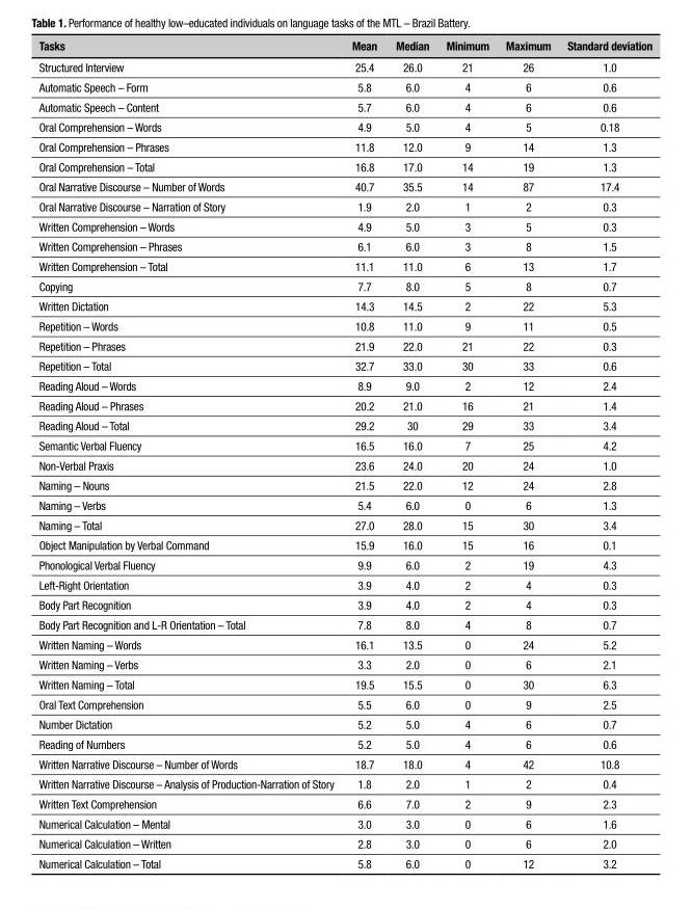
<table><thead><tr><td>Tasks</td><td>Mean</td><td>Median</td><td>Minimum</td><td>Maximum</td><td>Standard deviation</td></tr></thead><tbody><tr><td>Structured Interview</td><td>25.4</td><td>26.0</td><td>21</td><td>26</td><td>1.0</td></tr><tr><td>Automatic Speech – Form</td><td>5.8</td><td>6.0</td><td>4</td><td>6</td><td>0.6</td></tr><tr><td>Automatic Speech – Content</td><td>5.7</td><td>6.0</td><td>4</td><td>6</td><td>0.6</td></tr><tr><td>Oral Comprehension – Words</td><td>4.9</td><td>5.0</td><td>4</td><td>5</td><td>0.18</td></tr><tr><td>Oral Comprehension – Phrases</td><td>11.8</td><td>12.0</td><td>9</td><td>14</td><td>1.3</td></tr><tr><td>Oral Comprehension – Total</td><td>16.8</td><td>17.0</td><td>14</td><td>19</td><td>1.3</td></tr><tr><td>Oral Narrative Discourse – Number of Words</td><td>40.7</td><td>35.5</td><td>14</td><td>87</td><td>17.4</td></tr><tr><td>Oral Narrative Discourse – Narration of Story</td><td>1.9</td><td>2.0</td><td>1</td><td>2</td><td>0.3</td></tr><tr><td>Written Comprehension – Words</td><td>4.9</td><td>5.0</td><td>3</td><td>5</td><td>0.3</td></tr><tr><td>Written Comprehension – Phrases</td><td>6.1</td><td>6.0</td><td>3</td><td>8</td><td>1.5</td></tr><tr><td>Written Comprehension – Total</td><td>11.1</td><td>11.0</td><td>6</td><td>13</td><td>1.7</td></tr><tr><td>Copying</td><td>7.7</td><td>8.0</td><td>5</td><td>8</td><td>0.7</td></tr><tr><td>Written Dictation</td><td>14.3</td><td>14.5</td><td>2</td><td>22</td><td>5.3</td></tr><tr><td>Repetition – Words</td><td>10.8</td><td>11.0</td><td>9</td><td>11</td><td>0.5</td></tr><tr><td>Repetition – Phrases</td><td>21.9</td><td>22.0</td><td>21</td><td>22</td><td>0.3</td></tr><tr><td>Repetition – Total</td><td>32.7</td><td>33.0</td><td>30</td><td>33</td><td>0.6</td></tr><tr><td>Reading Aloud – Words</td><td>8.9</td><td>9.0</td><td>2</td><td>12</td><td>2.4</td></tr><tr><td>Reading Aloud – Phrases</td><td>20.2</td><td>21.0</td><td>16</td><td>21</td><td>1.4</td></tr><tr><td>Reading Aloud – Total</td><td>29.2</td><td>30</td><td>29</td><td>33</td><td>3.4</td></tr><tr><td>Semantic Verbal Fluency</td><td>16.5</td><td>16.0</td><td>7</td><td>25</td><td>4.2</td></tr><tr><td>Non-Verbal Praxis</td><td>23.6</td><td>24.0</td><td>20</td><td>24</td><td>1.0</td></tr><tr><td>Naming – Nouns</td><td>21.5</td><td>22.0</td><td>12</td><td>24</td><td>2.8</td></tr><tr><td>Naming – Verbs</td><td>5.4</td><td>6.0</td><td>0</td><td>6</td><td>1.3</td></tr><tr><td>Naming – Total</td><td>27.0</td><td>28.0</td><td>15</td><td>30</td><td>3.4</td></tr><tr><td>Object Manipulation by Verbal Command</td><td>15.9</td><td>16.0</td><td>15</td><td>16</td><td>0.1</td></tr><tr><td>Phonological Verbal Fluency</td><td>9.9</td><td>6.0</td><td>2</td><td>19</td><td>4.3</td></tr><tr><td>Left-Right Orientation</td><td>3.9</td><td>4.0</td><td>2</td><td>4</td><td>0.3</td></tr><tr><td>Body Part Recognition</td><td>3.9</td><td>4.0</td><td>2</td><td>4</td><td>0.3</td></tr><tr><td>Body Part Recognition and L-R Orientation – Total</td><td>7.8</td><td>8.0</td><td>4</td><td>8</td><td>0.7</td></tr><tr><td>Written Naming – Words</td><td>16.1</td><td>13.5</td><td>0</td><td>24</td><td>5.2</td></tr><tr><td>Written Naming – Verbs</td><td>3.3</td><td>2.0</td><td>0</td><td>6</td><td>2.1</td></tr><tr><td>Written Naming – Total</td><td>19.5</td><td>15.5</td><td>0</td><td>30</td><td>6.3</td></tr><tr><td>Oral Text Comprehension</td><td>5.5</td><td>6.0</td><td>0</td><td>9</td><td>2.5</td></tr><tr><td>Number Dictation</td><td>5.2</td><td>5.0</td><td>4</td><td>6</td><td>0.7</td></tr><tr><td>Reading of Numbers</td><td>5.2</td><td>5.0</td><td>4</td><td>6</td><td>0.6</td></tr><tr><td>Written Narrative Discourse – Number of Words</td><td>18.7</td><td>18.0</td><td>4</td><td>42</td><td>10.8</td></tr><tr><td>Written Narrative Discourse – Analysis of Production-Narration of Story</td><td>1.8</td><td>2.0</td><td>1</td><td>2</td><td>0.4</td></tr><tr><td>Written Text Comprehension</td><td>6.6</td><td>7.0</td><td>2</td><td>9</td><td>2.3</td></tr><tr><td>Numerical Calculation – Mental</td><td>3.0</td><td>3.0</td><td>0</td><td>6</td><td>1.6</td></tr><tr><td>Numerical Calculation – Written</td><td>2.8</td><td>3.0</td><td>0</td><td>6</td><td>2.0</td></tr><tr><td>Numerical Calculation – Total</td><td>5.8</td><td>6.0</td><td>0</td><td>12</td><td>3.2</td></tr></tbody></table>